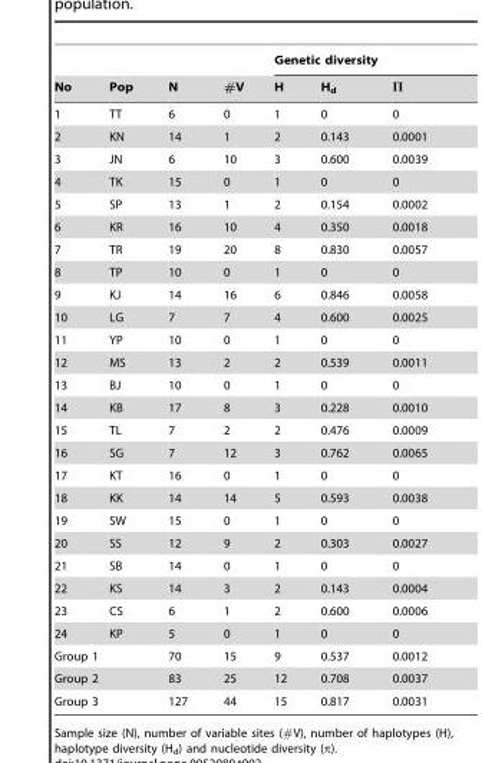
<table><thead><tr><td rowspan="2">No</td><td rowspan="2">Pop</td><td rowspan="2">N</td><td rowspan="2">#V</td><td colspan="3">Genetic diversity</td></tr><tr><td>H</td><td>H<sub>d</sub></td><td>Π</td></tr></thead><tbody><tr><td>1</td><td>TT</td><td>6</td><td>0</td><td>1</td><td>0</td><td>0</td></tr><tr><td>2</td><td>KN</td><td>14</td><td>1</td><td>2</td><td>0.143</td><td>0.0001</td></tr><tr><td>3</td><td>JN</td><td>6</td><td>10</td><td>3</td><td>0.600</td><td>0.0039</td></tr><tr><td>4</td><td>TK</td><td>15</td><td>0</td><td>1</td><td>0</td><td>0</td></tr><tr><td>5</td><td>SP</td><td>13</td><td>1</td><td>2</td><td>0.154</td><td>0.0002</td></tr><tr><td>6</td><td>KR</td><td>16</td><td>10</td><td>4</td><td>0.350</td><td>0.0018</td></tr><tr><td>7</td><td>TR</td><td>19</td><td>20</td><td>8</td><td>0.830</td><td>0.0057</td></tr><tr><td>8</td><td>TP</td><td>10</td><td>0</td><td>1</td><td>0</td><td>0</td></tr><tr><td>9</td><td>KJ</td><td>14</td><td>16</td><td>6</td><td>0.846</td><td>0.0058</td></tr><tr><td>10</td><td>LG</td><td>7</td><td>7</td><td>4</td><td>0.600</td><td>0.0025</td></tr><tr><td>11</td><td>YP</td><td>10</td><td>0</td><td>1</td><td>0</td><td>0</td></tr><tr><td>12</td><td>MS</td><td>13</td><td>2</td><td>2</td><td>0.539</td><td>0.0011</td></tr><tr><td>13</td><td>BJ</td><td>10</td><td>0</td><td>1</td><td>0</td><td>0</td></tr><tr><td>14</td><td>KB</td><td>17</td><td>8</td><td>3</td><td>0.228</td><td>0.0010</td></tr><tr><td>15</td><td>TL</td><td>7</td><td>2</td><td>2</td><td>0.476</td><td>0.0009</td></tr><tr><td>16</td><td>SG</td><td>7</td><td>12</td><td>3</td><td>0.762</td><td>0.0065</td></tr><tr><td>17</td><td>KT</td><td>16</td><td>0</td><td>1</td><td>0</td><td>0</td></tr><tr><td>18</td><td>KK</td><td>14</td><td>14</td><td>5</td><td>0.593</td><td>0.0038</td></tr><tr><td>19</td><td>SW</td><td>15</td><td>0</td><td>1</td><td>0</td><td>0</td></tr><tr><td>20</td><td>SS</td><td>12</td><td>9</td><td>2</td><td>0.303</td><td>0.0027</td></tr><tr><td>21</td><td>SB</td><td>14</td><td>0</td><td>1</td><td>0</td><td>0</td></tr><tr><td>22</td><td>KS</td><td>14</td><td>3</td><td>2</td><td>0.143</td><td>0.0004</td></tr><tr><td>23</td><td>CS</td><td>6</td><td>1</td><td>2</td><td>0.600</td><td>0.0006</td></tr><tr><td>24</td><td>KP</td><td>5</td><td>0</td><td>1</td><td>0</td><td>0</td></tr><tr><td colspan="2">Group 1</td><td>70</td><td>15</td><td>9</td><td>0.537</td><td>0.0012</td></tr><tr><td colspan="2">Group 2</td><td>83</td><td>25</td><td>12</td><td>0.708</td><td>0.0037</td></tr><tr><td colspan="2">Group 3</td><td>127</td><td>44</td><td>15</td><td>0.817</td><td>0.0031</td></tr></tbody></table>